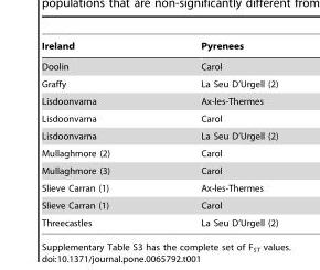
<table><thead><tr><td>Ireland</td><td>Pyrenees</td></tr></thead><tbody><tr><td>Doolin</td><td>Carol</td></tr><tr><td>Graffy</td><td>La Seu D’Urgell (2)</td></tr><tr><td>Lisdoonvarna</td><td>Ax-les-Thermes</td></tr><tr><td>Lisdoonvarna</td><td>Carol</td></tr><tr><td>Lisdoonvarna</td><td>La Seu D’Urgell (2)</td></tr><tr><td>Mullaghmore (2)</td><td>Carol</td></tr><tr><td>Mullaghmore (3)</td><td>Carol</td></tr><tr><td>Slieve Carran (1)</td><td>Ax-les-Thermes</td></tr><tr><td>Slieve Carran (1)</td><td>Carol</td></tr><tr><td>Threecastles</td><td>La Seu D’Urgell (2)</td></tr></tbody></table>